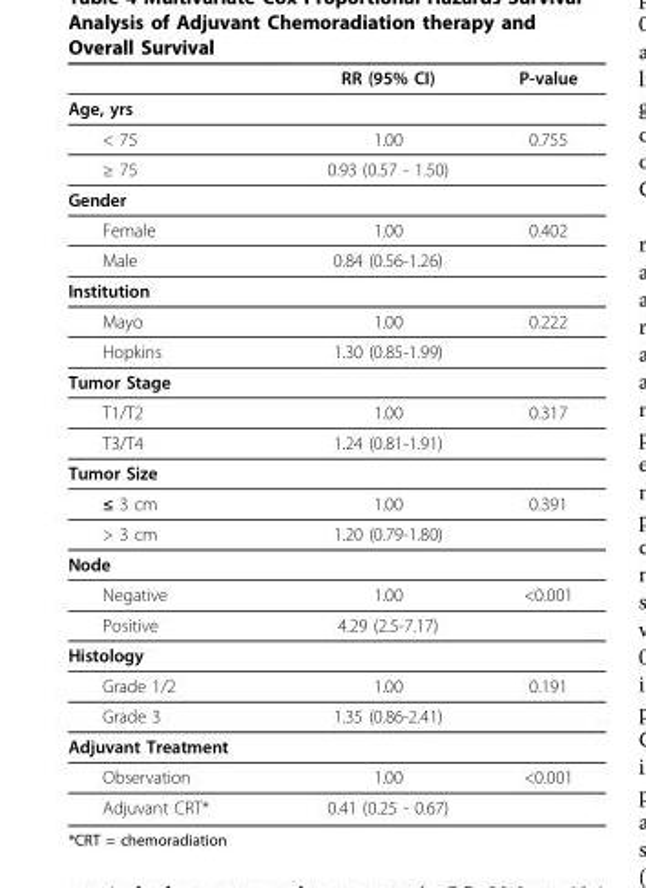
<table><thead><tr><td></td><td>RR (95% CI)</td><td>P-value</td></tr></thead><tbody><tr><td colspan="3">Age, yrs</td></tr><tr><td>&lt; 75</td><td>1.00</td><td>0.755</td></tr><tr><td>≥ 75</td><td>0.93 (0.57 - 1.50)</td><td></td></tr><tr><td colspan="3">Gender</td></tr><tr><td>Female</td><td>1.00</td><td>0.402</td></tr><tr><td>Male</td><td>0.84 (0.56-1.26)</td><td></td></tr><tr><td colspan="3">Institution</td></tr><tr><td>Mayo</td><td>1.00</td><td>0.222</td></tr><tr><td>Hopkins</td><td>1.30 (0.85-1.99)</td><td></td></tr><tr><td colspan="3">Tumor Stage</td></tr><tr><td>T1/T2</td><td>1.00</td><td>0.317</td></tr><tr><td>T3/T4</td><td>1.24 (0.81-1.91)</td><td></td></tr><tr><td colspan="3">Tumor Size</td></tr><tr><td>≤ 3 cm</td><td>1.00</td><td>0.391</td></tr><tr><td>&gt; 3 cm</td><td>1.20 (0.79-1.80)</td><td></td></tr><tr><td colspan="3">Node</td></tr><tr><td>Negative</td><td>1.00</td><td>&lt;0.001</td></tr><tr><td>Positive</td><td>4.29 (2.5-7.17)</td><td></td></tr><tr><td colspan="3">Histology</td></tr><tr><td>Grade 1/2</td><td>1.00</td><td>0.191</td></tr><tr><td>Grade 3</td><td>1.35 (0.86-2.41)</td><td></td></tr><tr><td colspan="3">Adjuvant Treatment</td></tr><tr><td>Observation</td><td>1.00</td><td>&lt;0.001</td></tr><tr><td>Adjuvant CRT*</td><td>0.41 (0.25 - 0.67)</td><td></td></tr></tbody></table>